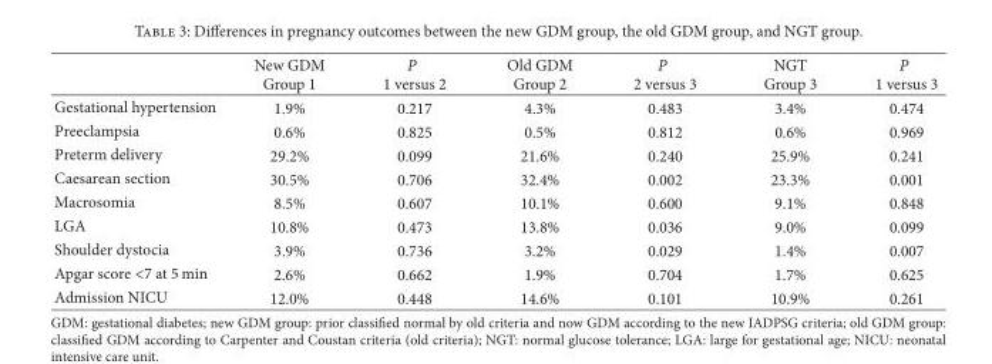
<table><thead><tr><td></td><td>New GDM Group 1</td><td>P 1 versus 2</td><td>Old GDM Group 2</td><td>P 2 versus 3</td><td>NGT Group 3</td><td>P 1 versus 3</td></tr></thead><tbody><tr><td>Gestational hypertension</td><td>1.9%</td><td>0.217</td><td>4.3%</td><td>0.483</td><td>3.4%</td><td>0.474</td></tr><tr><td>Preeclampsia</td><td>0.6%</td><td>0.825</td><td>0.5%</td><td>0.812</td><td>0.6%</td><td>0.969</td></tr><tr><td>Preterm delivery</td><td>29.2%</td><td>0.099</td><td>21.6%</td><td>0.240</td><td>25.9%</td><td>0.241</td></tr><tr><td>Caesarean section</td><td>30.5%</td><td>0.706</td><td>32.4%</td><td>0.002</td><td>23.3%</td><td>0.001</td></tr><tr><td>Macrosomia</td><td>8.5%</td><td>0.607</td><td>10.1%</td><td>0.600</td><td>9.1%</td><td>0.848</td></tr><tr><td>LGA</td><td>10.8%</td><td>0.473</td><td>13.8%</td><td>0.036</td><td>9.0%</td><td>0.099</td></tr><tr><td>Shoulder dystocia</td><td>3.9%</td><td>0.736</td><td>3.2%</td><td>0.029</td><td>1.4%</td><td>0.007</td></tr><tr><td>Apgar score &lt;7 at 5 min</td><td>2.6%</td><td>0.662</td><td>1.9%</td><td>0.704</td><td>1.7%</td><td>0.625</td></tr><tr><td>Admission NICU</td><td>12.0%</td><td>0.448</td><td>14.6%</td><td>0.101</td><td>10.9%</td><td>0.261</td></tr></tbody></table>